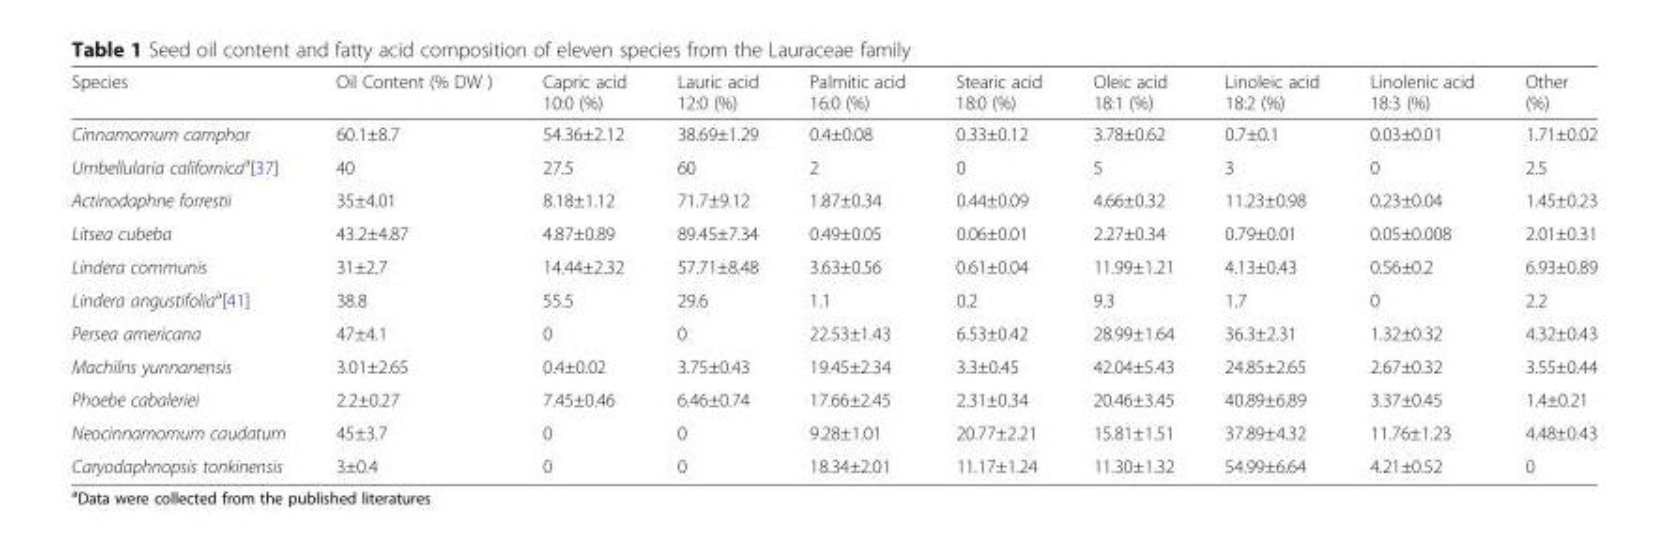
<table><thead><tr><td>Species</td><td>Oil Content (% DW )</td><td>Capric acid 10:0 (%)</td><td>Lauric acid 12:0 (%)</td><td>Palmitic acid 16:0 (%)</td><td>Stearic acid 18:0 (%)</td><td>Oleic acid 18:1 (%)</td><td>Linoleic acid 18:2 (%)</td><td>Linolenic acid 18:3 (%)</td><td>Other (%)</td></tr></thead><tbody><tr><td>Cinnamomum camphor</td><td>60.1±8.7</td><td>54.36±2.12</td><td>38.69±1.29</td><td>0.4±0.08</td><td>0.33±0.12</td><td>3.78±0.62</td><td>0.7±0.1</td><td>0.03±0.01</td><td>1.71±0.02</td></tr><tr><td>Umbellularia californica<sup>a</sup>[37]</td><td>40</td><td>27.5</td><td>60</td><td>2</td><td>0</td><td>5</td><td>3</td><td>0</td><td>2.5</td></tr><tr><td>Actinodaphne forrestii</td><td>35±4.01</td><td>8.18±1.12</td><td>71.7±9.12</td><td>1.87±0.34</td><td>0.44±0.09</td><td>4.66±0.32</td><td>11.23±0.98</td><td>0.23±0.04</td><td>1.45±0.23</td></tr><tr><td>Litsea cubeba</td><td>43.2±4.87</td><td>4.87±0.89</td><td>89.45±7.34</td><td>0.49±0.05</td><td>0.06±0.01</td><td>2.27±0.34</td><td>0.79±0.01</td><td>0.05±0.008</td><td>2.01±0.31</td></tr><tr><td>Lindera communis</td><td>31±2.7</td><td>14.44±2.32</td><td>57.71±8.48</td><td>3.63±0.56</td><td>0.61±0.04</td><td>11.99±1.21</td><td>4.13±0.43</td><td>0.56±0.2</td><td>6.93±0.89</td></tr><tr><td>Lindera angustifolia<sup>a</sup>[41]</td><td>38.8</td><td>55.5</td><td>29.6</td><td>1.1</td><td>0.2</td><td>9.3</td><td>1.7</td><td>0</td><td>2.2</td></tr><tr><td>Persea americana</td><td>47±4.1</td><td>0</td><td>0</td><td>22.53±1.43</td><td>6.53±0.42</td><td>28.99±1.64</td><td>36.3±2.31</td><td>1.32±0.32</td><td>4.32±0.43</td></tr><tr><td>Machilns yunnanensis</td><td>3.01±2.65</td><td>0.4±0.02</td><td>3.75±0.43</td><td>19.45±2.34</td><td>3.3±0.45</td><td>42.04±5.43</td><td>24.85±2.65</td><td>2.67±0.32</td><td>3.55±0.44</td></tr><tr><td>Phoebe cabaleriei</td><td>2.2±0.27</td><td>7.45±0.46</td><td>6.46±0.74</td><td>17.66±2.45</td><td>2.31±0.34</td><td>20.46±3.45</td><td>40.89±6.89</td><td>3.37±0.45</td><td>1.4±0.21</td></tr><tr><td>Neocinnamomum caudatum</td><td>45±3.7</td><td>0</td><td>0</td><td>9.28±1.01</td><td>20.77±2.21</td><td>15.81±1.51</td><td>37.89±4.32</td><td>11.76±1.23</td><td>4.48±0.43</td></tr><tr><td>Caryodaphnopsis tonkinensis</td><td>3±0.4</td><td>0</td><td>0</td><td>18.34±2.01</td><td>11.17±1.24</td><td>11.30±1.32</td><td>54.99±6.64</td><td>4.21±0.52</td><td>0</td></tr></tbody></table>